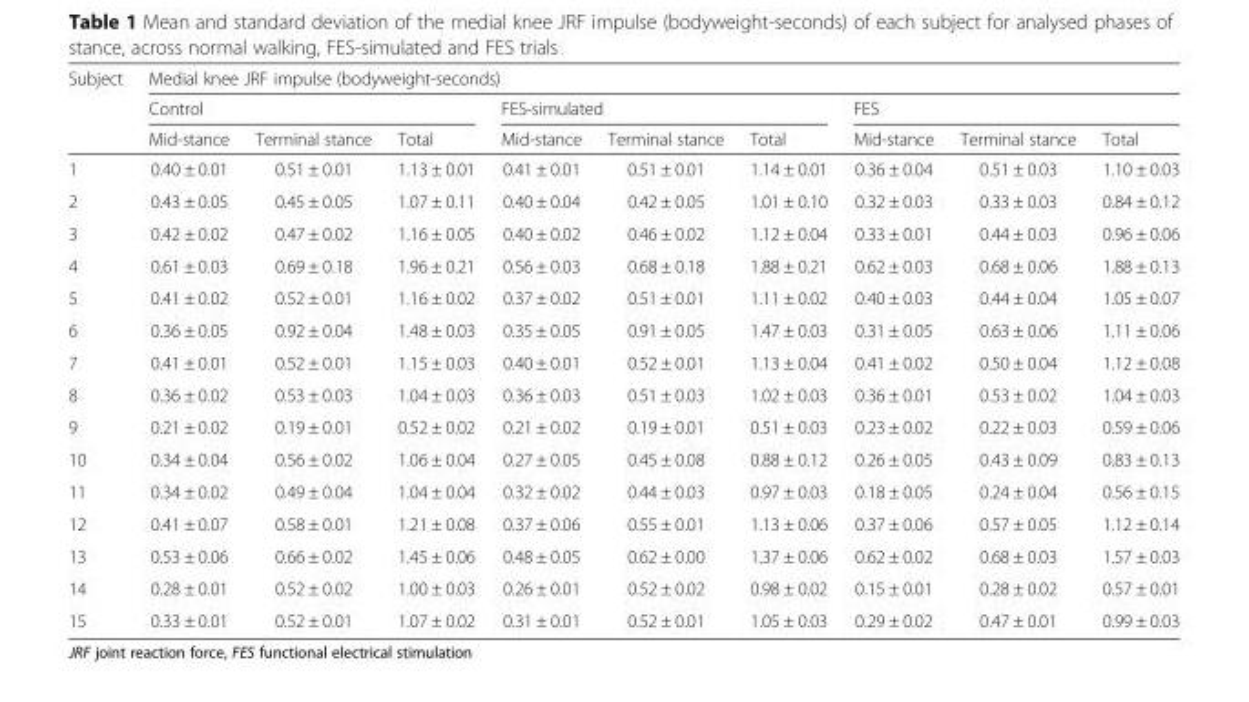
<table><thead><tr><td rowspan="3">Subject</td><td colspan="9">Medial knee JRF impulse (bodyweight-seconds)</td></tr><tr><td colspan="3">Control</td><td colspan="3">FES-simulated</td><td colspan="3">FES</td></tr><tr><td>Mid-stance</td><td>Terminal stance</td><td>Total</td><td>Mid-stance</td><td>Terminal stance</td><td>Total</td><td>Mid-stance</td><td>Terminal stance</td><td>Total</td></tr></thead><tbody><tr><td>1</td><td>0.40 ± 0.01</td><td>0.51 ± 0.01</td><td>1.13 ± 0.01</td><td>0.41 ± 0.01</td><td>0.51 ± 0.01</td><td>1.14 ± 0.01</td><td>0.36 ± 0.04</td><td>0.51 ± 0.03</td><td>1.10 ± 0.03</td></tr><tr><td>2</td><td>0.43 ± 0.05</td><td>0.45 ± 0.05</td><td>1.07 ± 0.11</td><td>0.40 ± 0.04</td><td>0.42 ± 0.05</td><td>1.01 ± 0.10</td><td>0.32 ± 0.03</td><td>0.33 ± 0.03</td><td>0.84 ± 0.12</td></tr><tr><td>3</td><td>0.42 ± 0.02</td><td>0.47 ± 0.02</td><td>1.16 ± 0.05</td><td>0.40 ± 0.02</td><td>0.46 ± 0.02</td><td>1.12 ± 0.04</td><td>0.33 ± 0.01</td><td>0.44 ± 0.03</td><td>0.96 ± 0.06</td></tr><tr><td>4</td><td>0.61 ± 0.03</td><td>0.69 ± 0.18</td><td>1.96 ± 0.21</td><td>0.56 ± 0.03</td><td>0.68 ± 0.18</td><td>1.88 ± 0.21</td><td>0.62 ± 0.03</td><td>0.68 ± 0.06</td><td>1.88 ± 0.13</td></tr><tr><td>5</td><td>0.41 ± 0.02</td><td>0.52 ± 0.01</td><td>1.16 ± 0.02</td><td>0.37 ± 0.02</td><td>0.51 ± 0.01</td><td>1.11 ± 0.02</td><td>0.40 ± 0.03</td><td>0.44 ± 0.04</td><td>1.05 ± 0.07</td></tr><tr><td>6</td><td>0.36 ± 0.05</td><td>0.92 ± 0.04</td><td>1.48 ± 0.03</td><td>0.35 ± 0.05</td><td>0.91 ± 0.05</td><td>1.47 ± 0.03</td><td>0.31 ± 0.05</td><td>0.63 ± 0.06</td><td>1.11 ± 0.06</td></tr><tr><td>7</td><td>0.41 ± 0.01</td><td>0.52 ± 0.01</td><td>1.15 ± 0.03</td><td>0.40 ± 0.01</td><td>0.52 ± 0.01</td><td>1.13 ± 0.04</td><td>0.41 ± 0.02</td><td>0.50 ± 0.04</td><td>1.12 ± 0.08</td></tr><tr><td>8</td><td>0.36 ± 0.02</td><td>0.53 ± 0.03</td><td>1.04 ± 0.03</td><td>0.36 ± 0.03</td><td>0.51 ± 0.03</td><td>1.02 ± 0.03</td><td>0.36 ± 0.01</td><td>0.53 ± 0.02</td><td>1.04 ± 0.03</td></tr><tr><td>9</td><td>0.21 ± 0.02</td><td>0.19 ± 0.01</td><td>0.52 ± 0.02</td><td>0.21 ± 0.02</td><td>0.19 ± 0.01</td><td>0.51 ± 0.03</td><td>0.23 ± 0.02</td><td>0.22 ± 0.03</td><td>0.59 ± 0.06</td></tr><tr><td>10</td><td>0.34 ± 0.04</td><td>0.56 ± 0.02</td><td>1.06 ± 0.04</td><td>0.27 ± 0.05</td><td>0.45 ± 0.08</td><td>0.88 ± 0.12</td><td>0.26 ± 0.05</td><td>0.43 ± 0.09</td><td>0.83 ± 0.13</td></tr><tr><td>11</td><td>0.34 ± 0.02</td><td>0.49 ± 0.04</td><td>1.04 ± 0.04</td><td>0.32 ± 0.02</td><td>0.44 ± 0.03</td><td>0.97 ± 0.03</td><td>0.18 ± 0.05</td><td>0.24 ± 0.04</td><td>0.56 ± 0.15</td></tr><tr><td>12</td><td>0.41 ± 0.07</td><td>0.58 ± 0.01</td><td>1.21 ± 0.08</td><td>0.37 ± 0.06</td><td>0.55 ± 0.01</td><td>1.13 ± 0.06</td><td>0.37 ± 0.06</td><td>0.57 ± 0.05</td><td>1.12 ± 0.14</td></tr><tr><td>13</td><td>0.53 ± 0.06</td><td>0.66 ± 0.02</td><td>1.45 ± 0.06</td><td>0.48 ± 0.05</td><td>0.62 ± 0.00</td><td>1.37 ± 0.06</td><td>0.62 ± 0.02</td><td>0.68 ± 0.03</td><td>1.57 ± 0.03</td></tr><tr><td>14</td><td>0.28 ± 0.01</td><td>0.52 ± 0.02</td><td>1.00 ± 0.03</td><td>0.26 ± 0.01</td><td>0.52 ± 0.02</td><td>0.98 ± 0.02</td><td>0.15 ± 0.01</td><td>0.28 ± 0.02</td><td>0.57 ± 0.01</td></tr><tr><td>15</td><td>0.33 ± 0.01</td><td>0.52 ± 0.01</td><td>1.07 ± 0.02</td><td>0.31 ± 0.01</td><td>0.52 ± 0.01</td><td>1.05 ± 0.03</td><td>0.29 ± 0.02</td><td>0.47 ± 0.01</td><td>0.99 ± 0.03</td></tr></tbody></table>